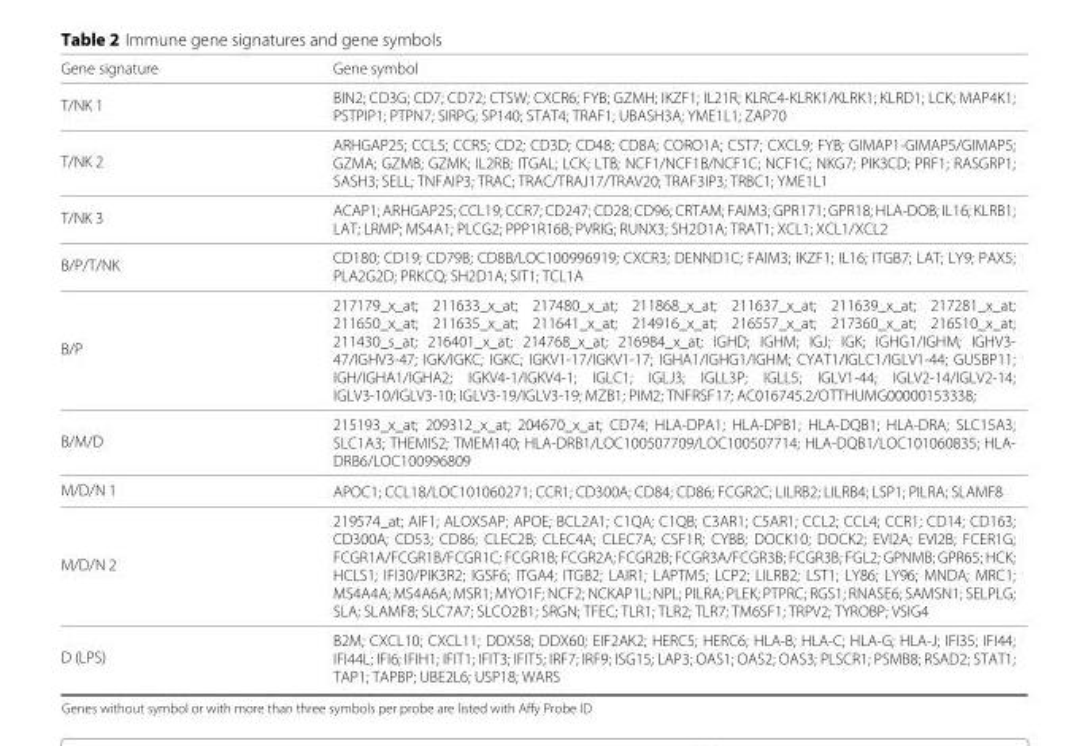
<table><thead><tr><td>Gene signature</td><td>Gene symbol</td></tr></thead><tbody><tr><td>T/NK 1</td><td>BIN2; CD3G; CD7; CD72; CTSW; CXCR6; FYB; GZMH; IKZF1; IL21R; KLRC4-KLRK1/KLRK1; KLRD1; LCK; MAP4K1; PSTPIP1; PTPN7; SIRPG; SP140; STAT4; TRAF1; UBASH3A; YME1L1; ZAP70</td></tr><tr><td>T/NK 2</td><td>ARHGAP25; CCL5; CCR5; CD2; CD3D; CD48; CD8A; CORO1A; CST7; CXCL9; FYB; GIMAP1-GIMAP5/GIMAP5; GZMA; GZMB; GZMK; IL2RB; ITGAL; LCK; LTB; NCF1/NCF1B/NCF1C; NCF1C; NKG7; PIK3CD; PRF1; RASGRP1; SASH3; SELL; TNFAIP3; TRAC; TRAC/TRAJ17/TRAV20; TRAF3IP3; TRBC1; YME1L1</td></tr><tr><td>T/NK 3</td><td>ACAP1; ARHGAP25; CCL19; CCR7; CD247; CD28; CD96; CRTAM; FAIM3; GPR171; GPR18; HLA-DOB; IL16; KLRB1; LAT; LRMP; MS4A1; PLCG2; PPP1R16B; PVRIG; RUNX3; SH2D1A; TRAT1; XCL1; XCL1/XCL2</td></tr><tr><td>B/P/T/NK</td><td>CD180; CD19; CD79B; CD8B/LOC100996919; CXCR3; DENND1C; FAIM3; IKZF1; IL16; ITGB7; LAT; LY9; PAX5; PLA2G2D; PRKCQ; SH2D1A; SIT1; TCL1A</td></tr><tr><td>B/P</td><td>217179_x_at; 211633_x_at; 217480_x_at; 211868_x_at; 211637_x_at; 211639_x_at; 217281_x_at; 211650_x_at; 211635_x_at; 211641_x_at; 214916_x_at; 216557_x_at; 217360_x_at; 216510_x_at; 211430_s_at; 216401_x_at; 214768_x_at; 216984_x_at; IGHD; IGHM; IGJ; IGK; IGHG1/IGHM; IGHV3- 47/IGHV3-47; IGK/IGKC; IGKC; IGKV1-17/IGKV1-17; IGHA1/IGHG1/IGHM; CYAT1/IGLC1/IGLV1-44; GUSBP11; IGH/IGHA1/IGHA2; IGKV4-1/IGKV4-1; IGLC1; IGLJ3; IGLL3P; IGLL5; IGLV1-44; IGLV2-14/IGLV2-14; IGLV3-10/IGLV3-10; IGLV3-19/IGLV3-19; MZB1; PIM2; TNFRSF17; AC016745.2/OTTHUMG00000153338;</td></tr><tr><td>B/M/D</td><td>215193_x_at; 209312_x_at; 204670_x_at; CD74; HLA-DPA1; HLA-DPB1; HLA-DQB1; HLA-DRA; SLC15A3; SLC1A3; THEMIS2; TMEM140; HLA-DRB1/LOC100507709/LOC100507714; HLA-DQB1/LOC101060835; HLA- DRB6/LOC100996809</td></tr><tr><td>M/D/N 1</td><td>APOC1; CCL18/LOC101060271; CCR1; CD300A; CD84; CD86; FCGR2C; LILRB2; LILRB4; LSP1; PILRA; SLAMF8</td></tr><tr><td>M/D/N 2</td><td>219574_at; AIF1; ALOX5AP; APOE; BCL2A1; C1QA; C1QB; C3AR1; C5AR1; CCL2; CCL4; CCR1; CD14; CD163; CD300A; CD53; CD86; CLEC2B; CLEC4A; CLEC7A; CSF1R; CYBB; DOCK10; DOCK2; EVI2A; EVI2B; FCER1G; FCGR1A/FCGR1B/FCGR1C; FCGR1B; FCGR2A; FCGR2B; FCGR3A/FCGR3B; FCGR3B; FGL2; GPNMB; GPR65; HCK; HCLS1; IFI30/PIK3R2; IGSF6; ITGA4; ITGB2; LAIR1; LAPTM5; LCP2; LILRB2; LST1; LY86; LY96; MNDA; MRC1; MS4A4A; MS4A6A; MSR1; MYO1F; NCF2; NCKAP1L; NPL; PILRA; PLEK; PTPRC; RGS1; RNASE6; SAMSN1; SELPLG; SLA; SLAMF8; SLC7A7; SLCO2B1; SRGN; TFEC; TLR1; TLR2; TLR7; TM6SF1; TRPV2; TYROBP; VSIG4</td></tr><tr><td>D (LPS)</td><td>B2M; CXCL10; CXCL11; DDX58; DDX60; EIF2AK2; HERC5; HERC6; HLA-B; HLA-C; HLA-G; HLA-J; IFI35; IFI44; IFI44L; IFI6; IFIH1; IFIT1; IFIT3; IFIT5; IRF7; IRF9; ISG15; LAP3; OAS1; OAS2; OAS3; PLSCR1; PSMB8; RSAD2; STAT1; TAP1; TAPBP; UBE2L6; USP18; WARS</td></tr></tbody></table>